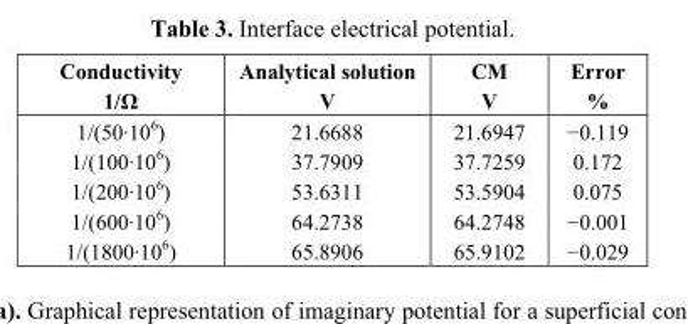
<table><thead><tr><td>Conductivity 1/Ω</td><td>Analytical solution V</td><td>CM V</td><td>Error %</td></tr></thead><tbody><tr><td>1/(50·10<sup>6</sup>)</td><td>21.6688</td><td>21.6947</td><td>−0.119</td></tr><tr><td>1/(100·10<sup>6</sup>)</td><td>37.7909</td><td>37.7259</td><td>0.172</td></tr><tr><td>1/(200·10<sup>6</sup>)</td><td>53.6311</td><td>53.5904</td><td>0.075</td></tr><tr><td>1/(600·10<sup>6</sup>)</td><td>64.2738</td><td>64.2748</td><td>−0.001</td></tr><tr><td>1/(1800·10<sup>6</sup>)</td><td>65.8906</td><td>65.9102</td><td>−0.029</td></tr></tbody></table>